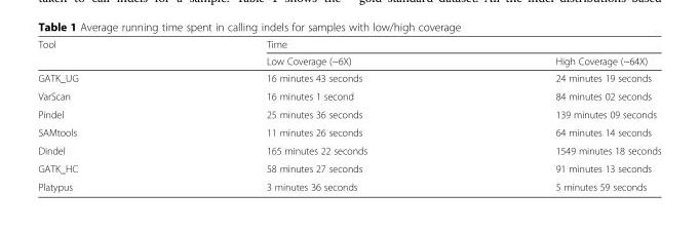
<table><thead><tr><td rowspan="2">Tool</td><td colspan="2">Time</td></tr><tr><td>Low Coverage (~6X)</td><td>High Coverage (~64X)</td></tr></thead><tbody><tr><td>GATK_UG</td><td>16 minutes 43 seconds</td><td>24 minutes 19 seconds</td></tr><tr><td>VarScan</td><td>16 minutes 1 second</td><td>84 minutes 02 seconds</td></tr><tr><td>Pindel</td><td>25 minutes 36 seconds</td><td>139 minutes 09 seconds</td></tr><tr><td>SAMtools</td><td>11 minutes 26 seconds</td><td>64 minutes 14 seconds</td></tr><tr><td>Dindel</td><td>165 minutes 22 seconds</td><td>1549 minutes 18 seconds</td></tr><tr><td>GATK_HC</td><td>58 minutes 27 seconds</td><td>91 minutes 13 seconds</td></tr><tr><td>Platypus</td><td>3 minutes 36 seconds</td><td>5 minutes 59 seconds</td></tr></tbody></table>